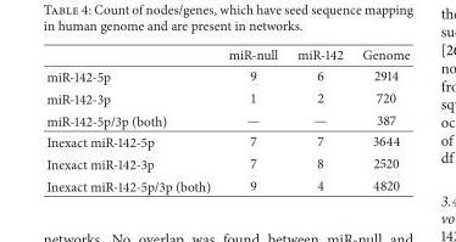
<table><thead><tr><td></td><td>miR-null</td><td>miR-142</td><td>Genome</td></tr></thead><tbody><tr><td>miR-142-5p</td><td>9</td><td>6</td><td>2914</td></tr><tr><td>miR-142-3p</td><td>1</td><td>2</td><td>720</td></tr><tr><td>miR-142-5p/3p (both)</td><td>—</td><td>—</td><td>387</td></tr><tr><td>Inexact miR-142-5p</td><td>7</td><td>7</td><td>3644</td></tr><tr><td>Inexact miR-142-3p</td><td>7</td><td>8</td><td>2520</td></tr><tr><td>Inexact miR-142-5p/3p (both)</td><td>9</td><td>4</td><td>4820</td></tr></tbody></table>